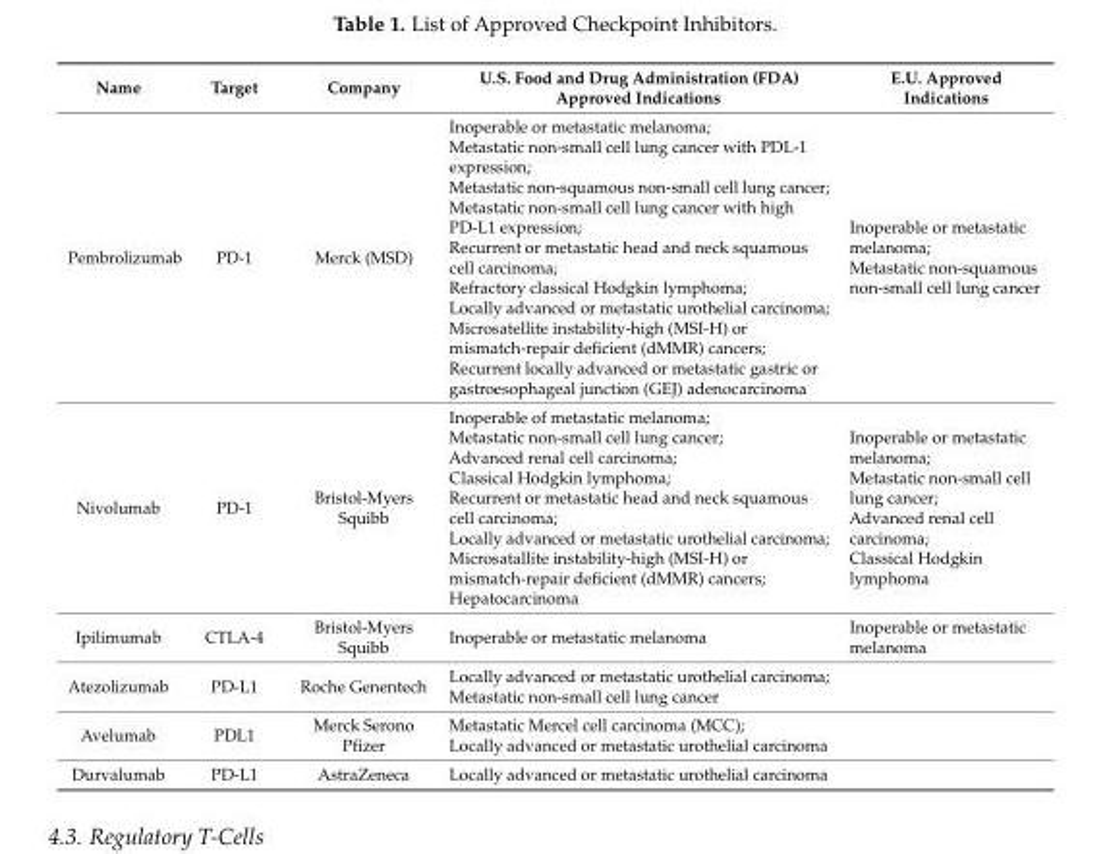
<table><thead><tr><td>Name</td><td>Target</td><td>Company</td><td>U.S. Food and Drug Administration (FDA) Approved Indications</td><td>E.U. Approved Indications</td></tr></thead><tbody><tr><td>Pembrolizumab</td><td>PD-1</td><td>Merck (MSD)</td><td>Inoperable or metastatic melanoma; Metastatic non-small cell lung cancer with PDL-1 expression; Metastatic non-squamous non-small cell lung cancer; Metastatic non-small cell lung cancer with high PD-L1 expression; Recurrent or metastatic head and neck squamous cell carcinoma; Refractory classical Hodgkin lymphoma; Locally advanced or metastatic urothelial carcinoma; Microsatellite instability-high (MSI-H) or mismatch-repair deficient (dMMR) cancers; Recurrent locally advanced or metastatic gastric or gastroesophageal junction (GEJ) adenocarcinoma</td><td>Inoperable or metastatic melanoma; Metastatic non-squamous non-small cell lung cancer</td></tr><tr><td>Nivolumab</td><td>PD-1</td><td>Bristol-Myers Squibb</td><td>Inoperable of metastatic melanoma; Metastatic non-small cell lung cancer; Advanced renal cell carcinoma; Classical Hodgkin lymphoma; Recurrent or metastatic head and neck squamous cell carcinoma; Locally advanced or metastatic urothelial carcinoma; Microsatallite instability-high (MSI-H) or mismatch-repair deficient (dMMR) cancers; Hepatocarcinoma</td><td>Inoperable or metastatic melanoma; Metastatic non-small cell lung cancer; Advanced renal cell carcinoma; Classical Hodgkin lymphoma</td></tr><tr><td>Ipilimumab</td><td>CTLA-4</td><td>Bristol-Myers Squibb</td><td>Inoperable or metastatic melanoma</td><td>Inoperable or metastatic melanoma</td></tr><tr><td>Atezolizumab</td><td>PD-L1</td><td>Roche Genentech</td><td>Locally advanced or metastatic urothelial carcinoma; Metastatic non-small cell lung cancer</td><td></td></tr><tr><td>Avelumab</td><td>PDL1</td><td>Merck Serono Pfizer</td><td>Metastatic Mercel cell carcinoma (MCC); Locally advanced or metastatic urothelial carcinoma</td><td></td></tr><tr><td>Durvalumab</td><td>PD-L1</td><td>AstraZeneca</td><td>Locally advanced or metastatic urothelial carcinoma</td><td></td></tr></tbody></table>